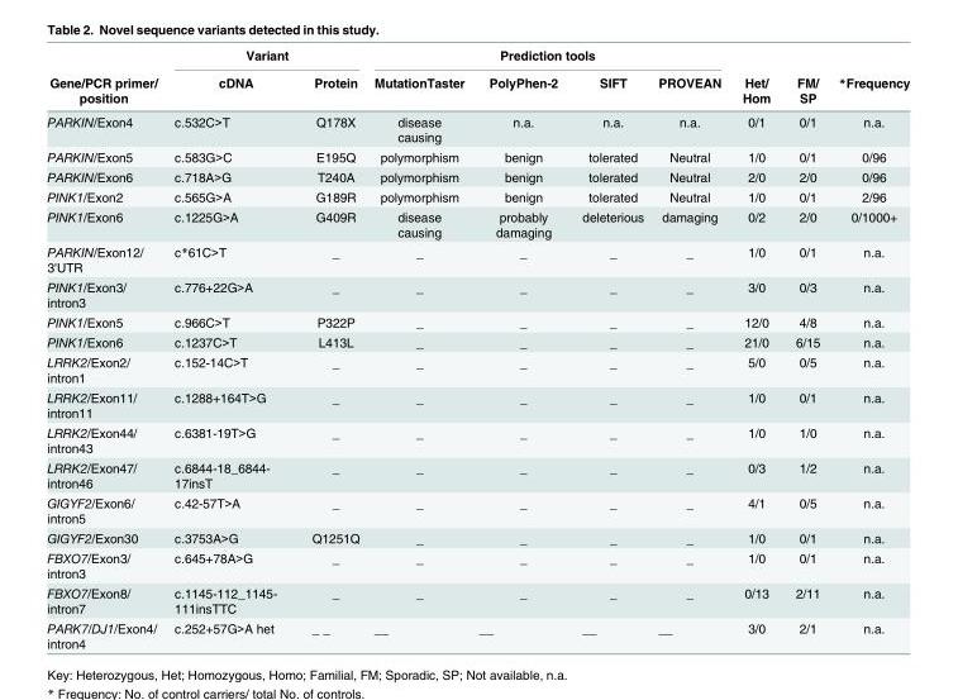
<table><thead><tr><td rowspan="2">Gene/PCR primer/ position</td><td colspan="2">Variant</td><td colspan="4">Prediction tools</td><td rowspan="2">Het/ Hom</td><td rowspan="2">FM/ SP</td><td rowspan="2">*Frequency</td></tr><tr><td>cDNA</td><td>Protein</td><td>MutationTaster</td><td>PolyPhen-2</td><td>SIFT</td><td>PROVEAN</td></tr></thead><tbody><tr><td>PARKIN/Exon4</td><td>c.532C&gt;T</td><td>Q178X</td><td>disease causing</td><td>n.a.</td><td>n.a.</td><td>n.a.</td><td>0/1</td><td>0/1</td><td>n.a.</td></tr><tr><td>PARKIN/Exon5</td><td>c.583G&gt;C</td><td>E195Q</td><td>polymorphism</td><td>benign</td><td>tolerated</td><td>Neutral</td><td>1/0</td><td>0/1</td><td>0/96</td></tr><tr><td>PARKIN/Exon6</td><td>c.718A&gt;G</td><td>T240A</td><td>polymorphism</td><td>benign</td><td>tolerated</td><td>Neutral</td><td>2/0</td><td>2/0</td><td>0/96</td></tr><tr><td>PINK1/Exon2</td><td>c.565G&gt;A</td><td>G189R</td><td>polymorphism</td><td>benign</td><td>tolerated</td><td>Neutral</td><td>1/0</td><td>0/1</td><td>2/96</td></tr><tr><td>PINK1/Exon6</td><td>c.1225G&gt;A</td><td>G409R</td><td>disease causing</td><td>probably damaging</td><td>deleterious</td><td>damaging</td><td>0/2</td><td>2/0</td><td>0/1000+</td></tr><tr><td>PARKIN/Exon12/ 3&#x27;UTR</td><td>c*61C&gt;T</td><td>_</td><td>_</td><td>_</td><td>_</td><td>_</td><td>1/0</td><td>0/1</td><td>n.a.</td></tr><tr><td>PINK1/Exon3/ intron3</td><td>c.776+22G&gt;A</td><td>_</td><td>_</td><td>_</td><td>_</td><td>_</td><td>3/0</td><td>0/3</td><td>n.a.</td></tr><tr><td>PINK1/Exon5</td><td>c.966C&gt;T</td><td>P322P</td><td>_</td><td>_</td><td>_</td><td>_</td><td>12/0</td><td>4/8</td><td>n.a.</td></tr><tr><td>PINK1/Exon6</td><td>c.1237C&gt;T</td><td>L413L</td><td>_</td><td>_</td><td>_</td><td>_</td><td>21/0</td><td>6/15</td><td>n.a.</td></tr><tr><td>LRRK2/Exon2/ intron1</td><td>c.152-14C&gt;T</td><td>_</td><td>_</td><td>_</td><td>_</td><td>_</td><td>5/0</td><td>0/5</td><td>n.a.</td></tr><tr><td>LRRK2/Exon11/ intron11</td><td>c.1288+164T&gt;G</td><td>_</td><td>_</td><td>_</td><td>_</td><td>_</td><td>1/0</td><td>0/1</td><td>n.a.</td></tr><tr><td>LRRK2/Exon44/ intron43</td><td>c.6381-19T&gt;G</td><td>_</td><td>_</td><td>_</td><td>_</td><td>_</td><td>1/0</td><td>1/0</td><td>n.a.</td></tr><tr><td>LRRK2/Exon47/ intron46</td><td>c.6844-18_6844- 17insT</td><td>_</td><td>_</td><td>_</td><td>_</td><td>_</td><td>0/3</td><td>1/2</td><td>n.a.</td></tr><tr><td>GIGYF2/Exon6/ intron5</td><td>c.42-57T&gt;A</td><td>_</td><td>_</td><td>_</td><td>_</td><td>_</td><td>4/1</td><td>0/5</td><td>n.a.</td></tr><tr><td>GIGYF2/Exon30</td><td>c.3753A&gt;G</td><td>Q1251Q</td><td>_</td><td>_</td><td>_</td><td>_</td><td>1/0</td><td>0/1</td><td>n.a.</td></tr><tr><td>FBXO7/Exon3/ intron3</td><td>c.645+78A&gt;G</td><td>_</td><td>_</td><td>_</td><td>_</td><td>_</td><td>1/0</td><td>0/1</td><td>n.a.</td></tr><tr><td>FBXO7/Exon8/ intron7</td><td>c.1145-112_1145- 111insTTC</td><td>_</td><td>_</td><td>_</td><td>_</td><td>_</td><td>0/13</td><td>2/11</td><td>n.a.</td></tr><tr><td>PARK7/DJ1/Exon4/ intron4</td><td>c.252+57G&gt;A het</td><td>_ _</td><td>__</td><td>__</td><td>__</td><td>__</td><td>3/0</td><td>2/1</td><td>n.a.</td></tr></tbody></table>